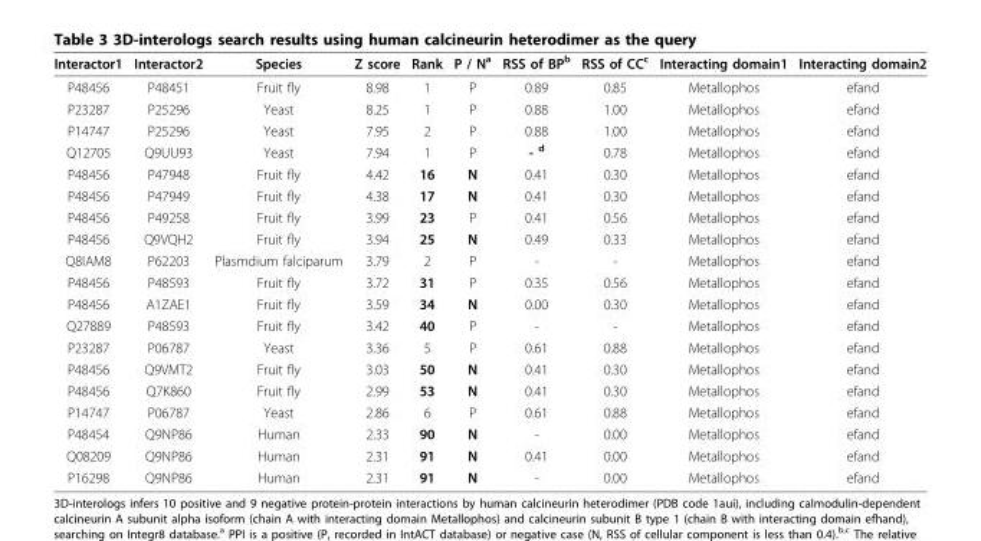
<table><thead><tr><td>Interactor1</td><td>Interactor2</td><td>Species</td><td>Z score</td><td>Rank</td><td>P / N<sup>a</sup></td><td>RSS of BP<sup>b</sup></td><td>RSS of CC<sup>c</sup></td><td>Interacting domain1</td><td>Interacting domain2</td></tr></thead><tbody><tr><td>P48456</td><td>P48451</td><td>Fruit fly</td><td>8.98</td><td>1</td><td>P</td><td>0.89</td><td>0.85</td><td>Metallophos</td><td>efand</td></tr><tr><td>P23287</td><td>P25296</td><td>Yeast</td><td>8.25</td><td>1</td><td>P</td><td>0.88</td><td>1.00</td><td>Metallophos</td><td>efand</td></tr><tr><td>P14747</td><td>P25296</td><td>Yeast</td><td>7.95</td><td>2</td><td>P</td><td>0.88</td><td>1.00</td><td>Metallophos</td><td>efand</td></tr><tr><td>Q12705</td><td>Q9UU93</td><td>Yeast</td><td>7.94</td><td>1</td><td>P</td><td>- <sup>d</sup></td><td>0.78</td><td>Metallophos</td><td>efand</td></tr><tr><td>P48456</td><td>P47948</td><td>Fruit fly</td><td>4.42</td><td>16</td><td>N</td><td>0.41</td><td>0.30</td><td>Metallophos</td><td>efand</td></tr><tr><td>P48456</td><td>P47949</td><td>Fruit fly</td><td>4.38</td><td>17</td><td>N</td><td>0.41</td><td>0.30</td><td>Metallophos</td><td>efand</td></tr><tr><td>P48456</td><td>P49258</td><td>Fruit fly</td><td>3.99</td><td>23</td><td>P</td><td>0.41</td><td>0.56</td><td>Metallophos</td><td>efand</td></tr><tr><td>P48456</td><td>Q9VQH2</td><td>Fruit fly</td><td>3.94</td><td>25</td><td>N</td><td>0.49</td><td>0.33</td><td>Metallophos</td><td>efand</td></tr><tr><td>Q8IAM8</td><td>P62203</td><td>Plasmdium falciparum</td><td>3.79</td><td>2</td><td>P</td><td>-</td><td>-</td><td>Metallophos</td><td>efand</td></tr><tr><td>P48456</td><td>P48593</td><td>Fruit fly</td><td>3.72</td><td>31</td><td>P</td><td>0.35</td><td>0.56</td><td>Metallophos</td><td>efand</td></tr><tr><td>P48456</td><td>A1ZAE1</td><td>Fruit fly</td><td>3.59</td><td>34</td><td>N</td><td>0.00</td><td>0.30</td><td>Metallophos</td><td>efand</td></tr><tr><td>Q27889</td><td>P48593</td><td>Fruit fly</td><td>3.42</td><td>40</td><td>P</td><td>-</td><td>-</td><td>Metallophos</td><td>efand</td></tr><tr><td>P23287</td><td>P06787</td><td>Yeast</td><td>3.36</td><td>5</td><td>P</td><td>0.61</td><td>0.88</td><td>Metallophos</td><td>efand</td></tr><tr><td>P48456</td><td>Q9VMT2</td><td>Fruit fly</td><td>3.03</td><td>50</td><td>N</td><td>0.41</td><td>0.30</td><td>Metallophos</td><td>efand</td></tr><tr><td>P48456</td><td>Q7K860</td><td>Fruit fly</td><td>2.99</td><td>53</td><td>N</td><td>0.41</td><td>0.30</td><td>Metallophos</td><td>efand</td></tr><tr><td>P14747</td><td>P06787</td><td>Yeast</td><td>2.86</td><td>6</td><td>P</td><td>0.61</td><td>0.88</td><td>Metallophos</td><td>efand</td></tr><tr><td>P48454</td><td>Q9NP86</td><td>Human</td><td>2.33</td><td>90</td><td>N</td><td>-</td><td>0.00</td><td>Metallophos</td><td>efand</td></tr><tr><td>Q08209</td><td>Q9NP86</td><td>Human</td><td>2.31</td><td>91</td><td>N</td><td>0.41</td><td>0.00</td><td>Metallophos</td><td>efand</td></tr><tr><td>P16298</td><td>Q9NP86</td><td>Human</td><td>2.31</td><td>91</td><td>N</td><td>-</td><td>0.00</td><td>Metallophos</td><td>efand</td></tr></tbody></table>